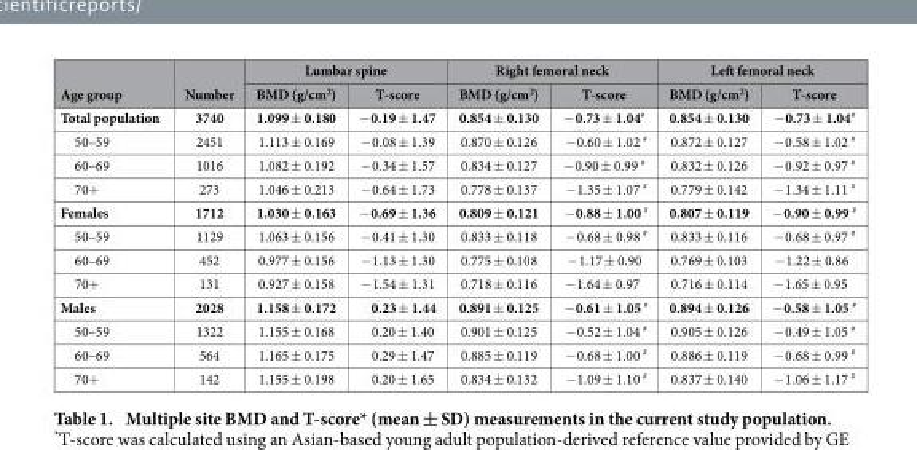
<table><thead><tr><td rowspan="2">Age group</td><td rowspan="2">Number</td><td colspan="2">Lumbar spine</td><td colspan="2">Right femoral neck</td><td colspan="2">Left femoral neck</td></tr><tr><td>BMD (g/cm<sup>2</sup>)</td><td>T-score</td><td>BMD (g/cm<sup>2</sup>)</td><td>T-score</td><td>BMD (g/cm<sup>2</sup>)</td><td>T-score</td></tr></thead><tbody><tr><td>Total population</td><td>3740</td><td>1.099 ± 0.180</td><td>− 0.19 ± 1.47</td><td>0.854 ± 0.130</td><td>− 0.73 ± 1.04#</td><td>0.854 ± 0.130</td><td>− 0.73 ± 1.04#</td></tr><tr><td>50–59</td><td>2451</td><td>1.113 ± 0.169</td><td>− 0.08 ± 1.39</td><td>0.870 ± 0.126</td><td>− 0.60 ± 1.02 #</td><td>0.872 ± 0.127</td><td>− 0.58 ± 1.02 #</td></tr><tr><td>60–69</td><td>1016</td><td>1.082 ± 0.192</td><td>− 0.34 ± 1.57</td><td>0.834 ± 0.127</td><td>− 0.90 ± 0.99 #</td><td>0.832 ± 0.126</td><td>− 0.92 ± 0.97 #</td></tr><tr><td>70+</td><td>273</td><td>1.046 ± 0.213</td><td>− 0.64 ± 1.73</td><td>0.778 ± 0.137</td><td>− 1.35 ± 1.07 #</td><td>0.779 ± 0.142</td><td>− 1.34 ± 1.11 #</td></tr><tr><td>Females</td><td>1712</td><td>1.030 ± 0.163</td><td>− 0.69 ± 1.36</td><td>0.809 ± 0.121</td><td>− 0.88 ± 1.00 #</td><td>0.807 ± 0.119</td><td>− 0.90 ± 0.99 #</td></tr><tr><td>50–59</td><td>1129</td><td>1.063 ± 0.156</td><td>− 0.41 ± 1.30</td><td>0.833 ± 0.118</td><td>− 0.68 ± 0.98 #</td><td>0.833 ± 0.116</td><td>− 0.68 ± 0.97 #</td></tr><tr><td>60–69</td><td>452</td><td>0.977 ± 0.156</td><td>− 1.13 ± 1.30</td><td>0.775 ± 0.108</td><td>− 1.17 ± 0.90</td><td>0.769 ± 0.103</td><td>− 1.22 ± 0.86</td></tr><tr><td>70+</td><td>131</td><td>0.927 ± 0.158</td><td>− 1.54 ± 1.31</td><td>0.718 ± 0.116</td><td>− 1.64 ± 0.97</td><td>0.716 ± 0.114</td><td>− 1.65 ± 0.95</td></tr><tr><td>Males</td><td>2028</td><td>1.158 ± 0.172</td><td>0.23 ± 1.44</td><td>0.891 ± 0.125</td><td>− 0.61 ± 1.05 #</td><td>0.894 ± 0.126</td><td>− 0.58 ± 1.05 #</td></tr><tr><td>50–59</td><td>1322</td><td>1.155 ± 0.168</td><td>0.20 ± 1.40</td><td>0.901 ± 0.125</td><td>− 0.52 ± 1.04 #</td><td>0.905 ± 0.126</td><td>− 0.49 ± 1.05 #</td></tr><tr><td>60–69</td><td>564</td><td>1.165 ± 0.175</td><td>0.29 ± 1.47</td><td>0.885 ± 0.119</td><td>− 0.68 ± 1.00 #</td><td>0.886 ± 0.119</td><td>− 0.68 ± 0.99 #</td></tr><tr><td>70+</td><td>142</td><td>1.155 ± 0.198</td><td>0.20 ± 1.65</td><td>0.834 ± 0.132</td><td>− 1.09 ± 1.10 #</td><td>0.837 ± 0.140</td><td>− 1.06 ± 1.17 #</td></tr></tbody></table>